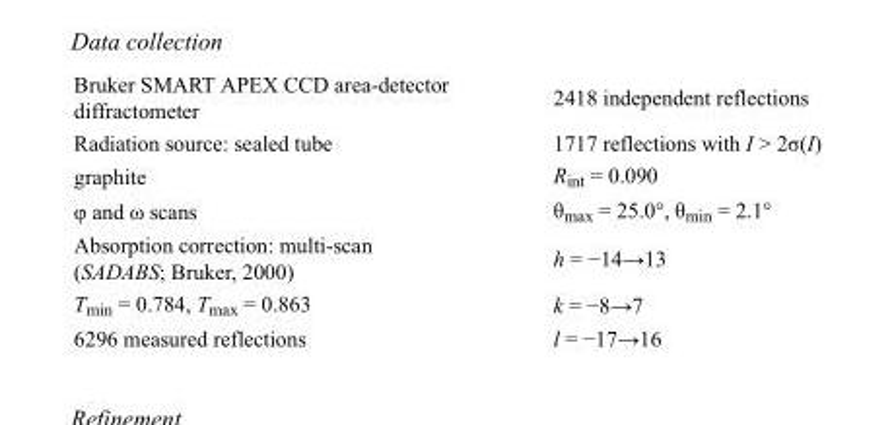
<table><tbody><tr><td>Bruker SMART APEX CCD area-detector diffractometer</td><td>2418 independent reflections</td></tr><tr><td>Radiation source: sealed tube</td><td>1717 reflections with I &gt; 2σ(I)</td></tr><tr><td>graphite</td><td>R<sub>int</sub> = 0.090</td></tr><tr><td>φ and ω scans</td><td>θ<sub>max</sub> = 25.0°, θ<sub>min</sub> = 2.1°</td></tr><tr><td>Absorption correction: multi-scan (SADABS; Bruker, 2000)</td><td>h = −14→13</td></tr><tr><td>T<sub>min</sub> = 0.784, T<sub>max</sub> = 0.863</td><td>k = −8→7</td></tr><tr><td>6296 measured reflections</td><td>l = −17→16</td></tr></tbody></table>